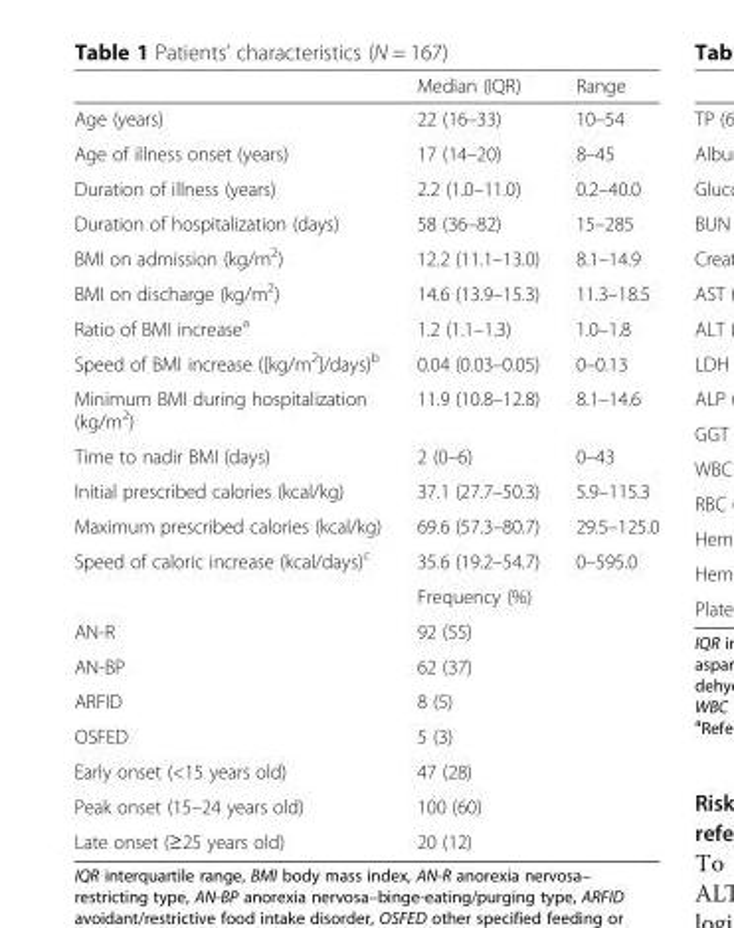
<table><thead><tr><td></td><td>Median (IQR)</td><td>Range</td></tr></thead><tbody><tr><td>Age (years)</td><td>22 (16–33)</td><td>10–54</td></tr><tr><td>Age of illness onset (years)</td><td>17 (14–20)</td><td>8–45</td></tr><tr><td>Duration of illness (years)</td><td>2.2 (1.0–11.0)</td><td>0.2–40.0</td></tr><tr><td>Duration of hospitalization (days)</td><td>58 (36–82)</td><td>15–285</td></tr><tr><td>BMI on admission (kg/m<sup>2</sup>)</td><td>12.2 (11.1–13.0)</td><td>8.1–14.9</td></tr><tr><td>BMI on discharge (kg/m<sup>2</sup>)</td><td>14.6 (13.9–15.3)</td><td>11.3–18.5</td></tr><tr><td>Ratio of BMI increase<sup>a</sup></td><td>1.2 (1.1–1.3)</td><td>1.0–1.8</td></tr><tr><td>Speed of BMI increase ([kg/m<sup>2</sup>]/days)<sup>b</sup></td><td>0.04 (0.03–0.05)</td><td>0–0.13</td></tr><tr><td>Minimum BMI during hospitalization (kg/m<sup>2</sup>)</td><td>11.9 (10.8–12.8)</td><td>8.1–14.6</td></tr><tr><td>Time to nadir BMI (days)</td><td>2 (0–6)</td><td>0–43</td></tr><tr><td>Initial prescribed calories (kcal/kg)</td><td>37.1 (27.7–50.3)</td><td>5.9–115.3</td></tr><tr><td>Maximum prescribed calories (kcal/kg)</td><td>69.6 (57.3–80.7)</td><td>29.5–125.0</td></tr><tr><td rowspan="2">Speed of caloric increase (kcal/days)<sup>c</sup></td><td>35.6 (19.2–54.7)</td><td>0–595.0</td></tr><tr><td colspan="2">Frequency (%)</td></tr><tr><td>AN-R</td><td colspan="2">92 (55)</td></tr><tr><td>AN-BP</td><td colspan="2">62 (37)</td></tr><tr><td>ARFID</td><td colspan="2">8 (5)</td></tr><tr><td>OSFED</td><td colspan="2">5 (3)</td></tr><tr><td>Early onset (&lt;15 years old)</td><td colspan="2">47 (28)</td></tr><tr><td>Peak onset (15–24 years old)</td><td colspan="2">100 (60)</td></tr><tr><td>Late onset (≥25 years old)</td><td colspan="2">20 (12)</td></tr></tbody></table>